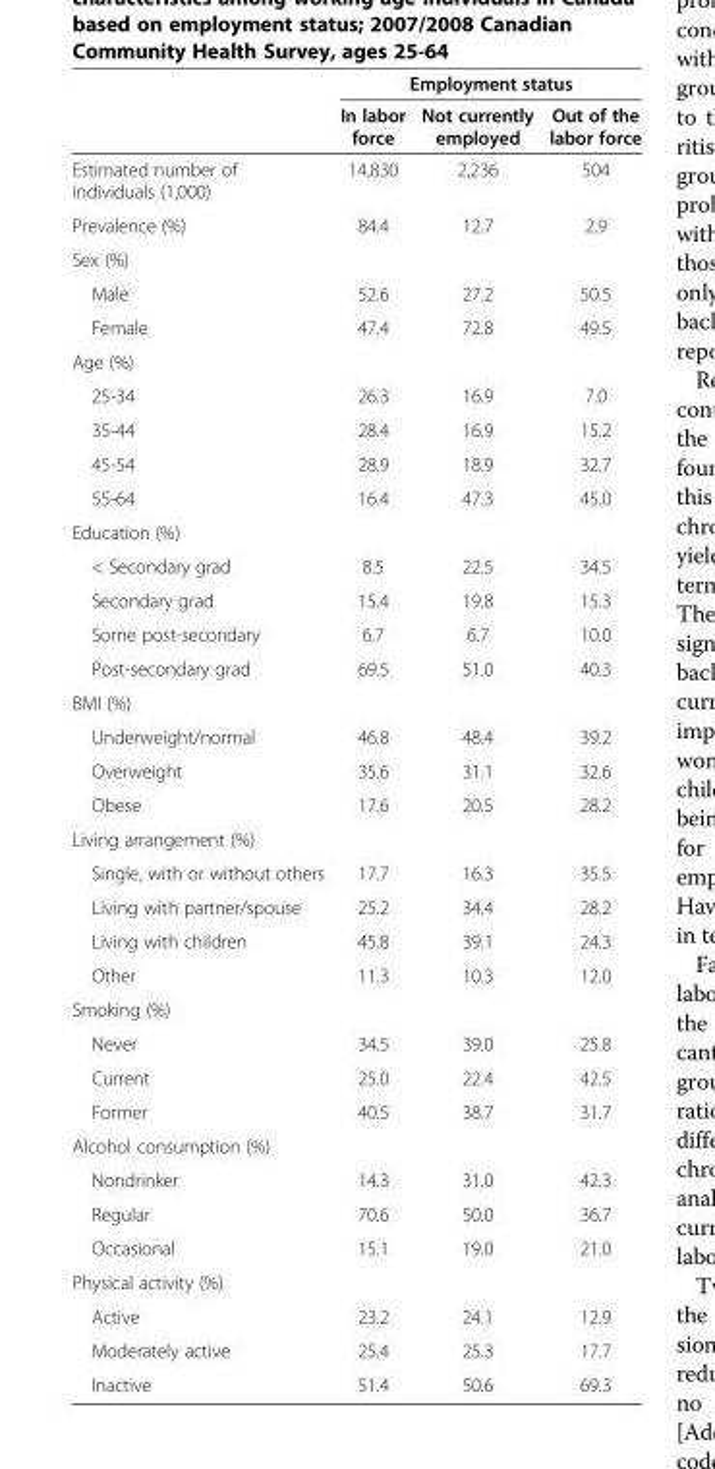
<table><thead><tr><td rowspan="2"></td><td colspan="3">Employment status</td></tr><tr><td>In labor force</td><td>Not currently employed</td><td>Out of the labor force</td></tr></thead><tbody><tr><td>Estimated number of individuals (1,000)</td><td>14,830</td><td>2,236</td><td>504</td></tr><tr><td>Prevalence (%)</td><td>84.4</td><td>12.7</td><td>2.9</td></tr><tr><td colspan="4">Sex (%)</td></tr><tr><td>Male</td><td>52.6</td><td>27.2</td><td>50.5</td></tr><tr><td>Female</td><td>47.4</td><td>72.8</td><td>49.5</td></tr><tr><td colspan="4">Age (%)</td></tr><tr><td>25-34</td><td>26.3</td><td>16.9</td><td>7.0</td></tr><tr><td>35-44</td><td>28.4</td><td>16.9</td><td>15.2</td></tr><tr><td>45-54</td><td>28.9</td><td>18.9</td><td>32.7</td></tr><tr><td>55-64</td><td>16.4</td><td>47.3</td><td>45.0</td></tr><tr><td colspan="4">Education (%)</td></tr><tr><td>&lt; Secondary grad</td><td>8.5</td><td>22.5</td><td>34.5</td></tr><tr><td>Secondary grad</td><td>15.4</td><td>19.8</td><td>15.3</td></tr><tr><td>Some post-secondary</td><td>6.7</td><td>6.7</td><td>10.0</td></tr><tr><td>Post-secondary grad</td><td>69.5</td><td>51.0</td><td>40.3</td></tr><tr><td colspan="4">BMI (%)</td></tr><tr><td>Underweight/normal</td><td>46.8</td><td>48.4</td><td>39.2</td></tr><tr><td>Overweight</td><td>35.6</td><td>31.1</td><td>32.6</td></tr><tr><td>Obese</td><td>17.6</td><td>20.5</td><td>28.2</td></tr><tr><td colspan="4">Living arrangement (%)</td></tr><tr><td>Single, with or without others</td><td>17.7</td><td>16.3</td><td>35.5</td></tr><tr><td>Living with partner/spouse</td><td>25.2</td><td>34.4</td><td>28.2</td></tr><tr><td>Living with children</td><td>45.8</td><td>39.1</td><td>24.3</td></tr><tr><td>Other</td><td>11.3</td><td>10.3</td><td>12.0</td></tr><tr><td colspan="4">Smoking (%)</td></tr><tr><td>Never</td><td>34.5</td><td>39.0</td><td>25.8</td></tr><tr><td>Current</td><td>25.0</td><td>22.4</td><td>42.5</td></tr><tr><td>Former</td><td>40.5</td><td>38.7</td><td>31.7</td></tr><tr><td colspan="4">Alcohol consumption (%)</td></tr><tr><td>Nondrinker</td><td>14.3</td><td>31.0</td><td>42.3</td></tr><tr><td>Regular</td><td>70.6</td><td>50.0</td><td>36.7</td></tr><tr><td>Occasional</td><td>15.1</td><td>19.0</td><td>21.0</td></tr><tr><td colspan="4">Physical activity (%)</td></tr><tr><td>Active</td><td>23.2</td><td>24.1</td><td>12.9</td></tr><tr><td>Moderately active</td><td>25.4</td><td>25.3</td><td>17.7</td></tr><tr><td>Inactive</td><td>51.4</td><td>50.6</td><td>69.3</td></tr></tbody></table>